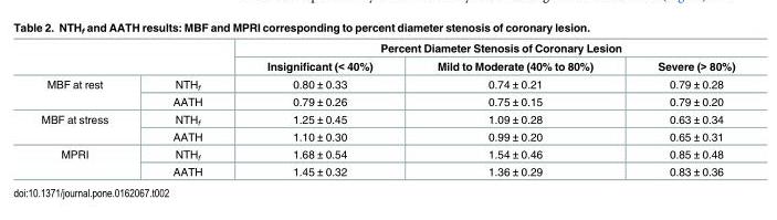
<table><thead><tr><td rowspan="2"></td><td rowspan="2"></td><td colspan="3">Percent Diameter Stenosis of Coronary Lesion</td></tr><tr><td>Insignificant (&lt; 40%)</td><td>Mild to Moderate (40% to 80%)</td><td>Severe (&gt; 80%)</td></tr></thead><tbody><tr><td rowspan="2">MBF at rest</td><td>NTH<sub>f</sub></td><td>0.80 ± 0.33</td><td>0.74 ± 0.21</td><td>0.79 ± 0.28</td></tr><tr><td>AATH</td><td>0.79 ± 0.26</td><td>0.75 ± 0.15</td><td>0.79 ± 0.20</td></tr><tr><td rowspan="2">MBF at stress</td><td>NTH<sub>f</sub></td><td>1.25 ± 0.45</td><td>1.09 ± 0.28</td><td>0.63 ± 0.34</td></tr><tr><td>AATH</td><td>1.10 ± 0.30</td><td>0.99 ± 0.20</td><td>0.65 ± 0.31</td></tr><tr><td rowspan="2">MPRI</td><td>NTH<sub>f</sub></td><td>1.68 ± 0.54</td><td>1.54 ± 0.46</td><td>0.85 ± 0.48</td></tr><tr><td>AATH</td><td>1.45 ± 0.32</td><td>1.36 ± 0.29</td><td>0.83 ± 0.36</td></tr></tbody></table>